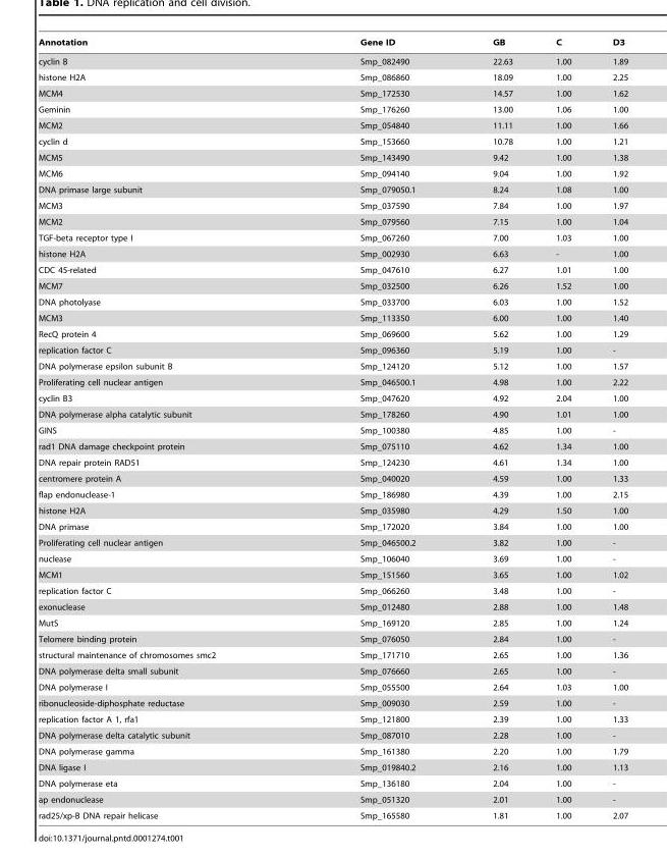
<table><thead><tr><td>Annotation</td><td>Gene ID</td><td>GB</td><td>C</td><td>D3</td></tr></thead><tbody><tr><td>cyclin B</td><td>Smp_082490</td><td>22.63</td><td>1.00</td><td>1.89</td></tr><tr><td>histone H2A</td><td>Smp_086860</td><td>18.09</td><td>1.00</td><td>2.25</td></tr><tr><td>MCM4</td><td>Smp_172530</td><td>14.57</td><td>1.00</td><td>1.62</td></tr><tr><td>Geminin</td><td>Smp_176260</td><td>13.00</td><td>1.06</td><td>1.00</td></tr><tr><td>MCM2</td><td>Smp_054840</td><td>11.11</td><td>1.00</td><td>1.66</td></tr><tr><td>cyclin d</td><td>Smp_153660</td><td>10.78</td><td>1.00</td><td>1.21</td></tr><tr><td>MCM5</td><td>Smp_143490</td><td>9.42</td><td>1.00</td><td>1.38</td></tr><tr><td>MCM6</td><td>Smp_094140</td><td>9.04</td><td>1.00</td><td>1.92</td></tr><tr><td>DNA primase large subunit</td><td>Smp_079050.1</td><td>8.24</td><td>1.08</td><td>1.00</td></tr><tr><td>MCM3</td><td>Smp_037590</td><td>7.84</td><td>1.00</td><td>1.97</td></tr><tr><td>MCM2</td><td>Smp_079560</td><td>7.15</td><td>1.00</td><td>1.04</td></tr><tr><td>TGF-beta receptor type I</td><td>Smp_067260</td><td>7.00</td><td>1.03</td><td>1.00</td></tr><tr><td>histone H2A</td><td>Smp_002930</td><td>6.63</td><td>-</td><td>1.00</td></tr><tr><td>CDC 45-related</td><td>Smp_047610</td><td>6.27</td><td>1.01</td><td>1.00</td></tr><tr><td>MCM7</td><td>Smp_032500</td><td>6.26</td><td>1.52</td><td>1.00</td></tr><tr><td>DNA photolyase</td><td>Smp_033700</td><td>6.03</td><td>1.00</td><td>1.52</td></tr><tr><td>MCM3</td><td>Smp_113350</td><td>6.00</td><td>1.00</td><td>1.40</td></tr><tr><td>RecQ protein 4</td><td>Smp_069600</td><td>5.62</td><td>1.00</td><td>1.29</td></tr><tr><td>replication factor C</td><td>Smp_096360</td><td>5.19</td><td>1.00</td><td>-</td></tr><tr><td>DNA polymerase epsilon subunit B</td><td>Smp_124120</td><td>5.12</td><td>1.00</td><td>1.57</td></tr><tr><td>Proliferating cell nuclear antigen</td><td>Smp_046500.1</td><td>4.98</td><td>1.00</td><td>2.22</td></tr><tr><td>cyclin B3</td><td>Smp_047620</td><td>4.92</td><td>2.04</td><td>1.00</td></tr><tr><td>DNA polymerase alpha catalytic subunit</td><td>Smp_178260</td><td>4.90</td><td>1.01</td><td>1.00</td></tr><tr><td>GINS</td><td>Smp_100380</td><td>4.85</td><td>1.00</td><td>-</td></tr><tr><td>rad1 DNA damage checkpoint protein</td><td>Smp_075110</td><td>4.62</td><td>1.34</td><td>1.00</td></tr><tr><td>DNA repair protein RAD51</td><td>Smp_124230</td><td>4.61</td><td>1.34</td><td>1.00</td></tr><tr><td>centromere protein A</td><td>Smp_040020</td><td>4.59</td><td>1.00</td><td>1.33</td></tr><tr><td>flap endonuclease-1</td><td>Smp_186980</td><td>4.39</td><td>1.00</td><td>2.15</td></tr><tr><td>histone H2A</td><td>Smp_035980</td><td>4.29</td><td>1.50</td><td>1.00</td></tr><tr><td>DNA primase</td><td>Smp_172020</td><td>3.84</td><td>1.00</td><td>1.00</td></tr><tr><td>Proliferating cell nuclear antigen</td><td>Smp_046500.2</td><td>3.82</td><td>1.00</td><td>-</td></tr><tr><td>nuclease</td><td>Smp_106040</td><td>3.69</td><td>1.00</td><td>-</td></tr><tr><td>MCM1</td><td>Smp_151560</td><td>3.65</td><td>1.00</td><td>1.02</td></tr><tr><td>replication factor C</td><td>Smp_066260</td><td>3.48</td><td>1.00</td><td>-</td></tr><tr><td>exonuclease</td><td>Smp_012480</td><td>2.88</td><td>1.00</td><td>1.48</td></tr><tr><td>MutS</td><td>Smp_169120</td><td>2.85</td><td>1.00</td><td>1.24</td></tr><tr><td>Telomere binding protein</td><td>Smp_076050</td><td>2.84</td><td>1.00</td><td>-</td></tr><tr><td>structural maintenance of chromosomes smc2</td><td>Smp_171710</td><td>2.65</td><td>1.00</td><td>1.36</td></tr><tr><td>DNA polymerase delta small subunit</td><td>Smp_076660</td><td>2.65</td><td>1.00</td><td>-</td></tr><tr><td>DNA polymerase I</td><td>Smp_055500</td><td>2.64</td><td>1.03</td><td>1.00</td></tr><tr><td>ribonucleoside-diphosphate reductase</td><td>Smp_009030</td><td>2.59</td><td>1.00</td><td>-</td></tr><tr><td>replication factor A 1, rfa1</td><td>Smp_121800</td><td>2.39</td><td>1.00</td><td>1.33</td></tr><tr><td>DNA polymerase delta catalytic subunit</td><td>Smp_087010</td><td>2.28</td><td>1.00</td><td>-</td></tr><tr><td>DNA polymerase gamma</td><td>Smp_161380</td><td>2.20</td><td>1.00</td><td>1.79</td></tr><tr><td>DNA ligase I</td><td>Smp_019840.2</td><td>2.16</td><td>1.00</td><td>1.13</td></tr><tr><td>DNA polymerase eta</td><td>Smp_136180</td><td>2.04</td><td>1.00</td><td>-</td></tr><tr><td>ap endonuclease</td><td>Smp_051320</td><td>2.01</td><td>1.00</td><td>-</td></tr><tr><td>rad25/xp-B DNA repair helicase</td><td>Smp_165580</td><td>1.81</td><td>1.00</td><td>2.07</td></tr></tbody></table>